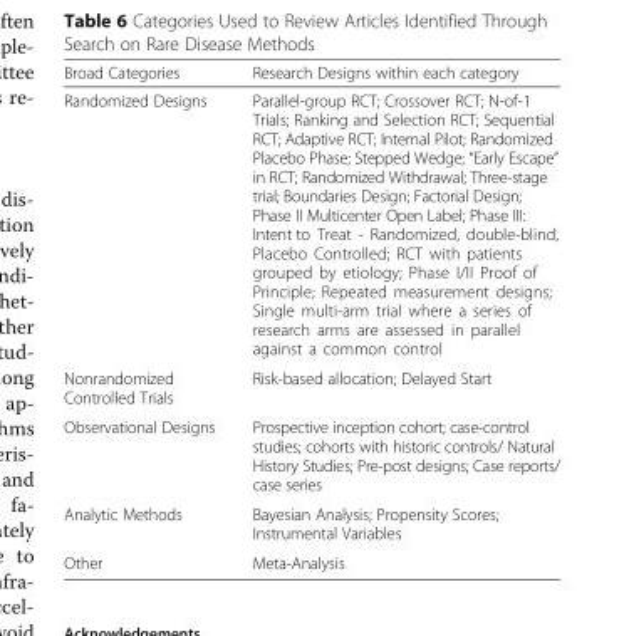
<table><thead><tr><td>Broad Categories</td><td>Research Designs within each category</td></tr></thead><tbody><tr><td>Randomized Designs</td><td>Parallel-group RCT; Crossover RCT; N-of-1 Trials; Ranking and Selection RCT; Sequential RCT; Adaptive RCT; Internal Pilot; Randomized Placebo Phase; Stepped Wedge; “Early Escape” in RCT; Randomized Withdrawal; Three-stage trial; Boundaries Design; Factorial Design; Phase II Multicenter Open Label; Phase III: Intent to Treat - Randomized, double-blind, Placebo Controlled; RCT with patients grouped by etiology; Phase I/II Proof of Principle; Repeated measurement designs; Single multi-arm trial where a series of research arms are assessed in parallel against a common control</td></tr><tr><td>Nonrandomized Controlled Trials</td><td>Risk-based allocation; Delayed Start</td></tr><tr><td>Observational Designs</td><td>Prospective inception cohort; case-control studies; cohorts with historic controls/ Natural History Studies; Pre-post designs; Case reports/ case series</td></tr><tr><td>Analytic Methods</td><td>Bayesian Analysis; Propensity Scores; Instrumental Variables</td></tr><tr><td>Other</td><td>Meta-Analysis</td></tr></tbody></table>